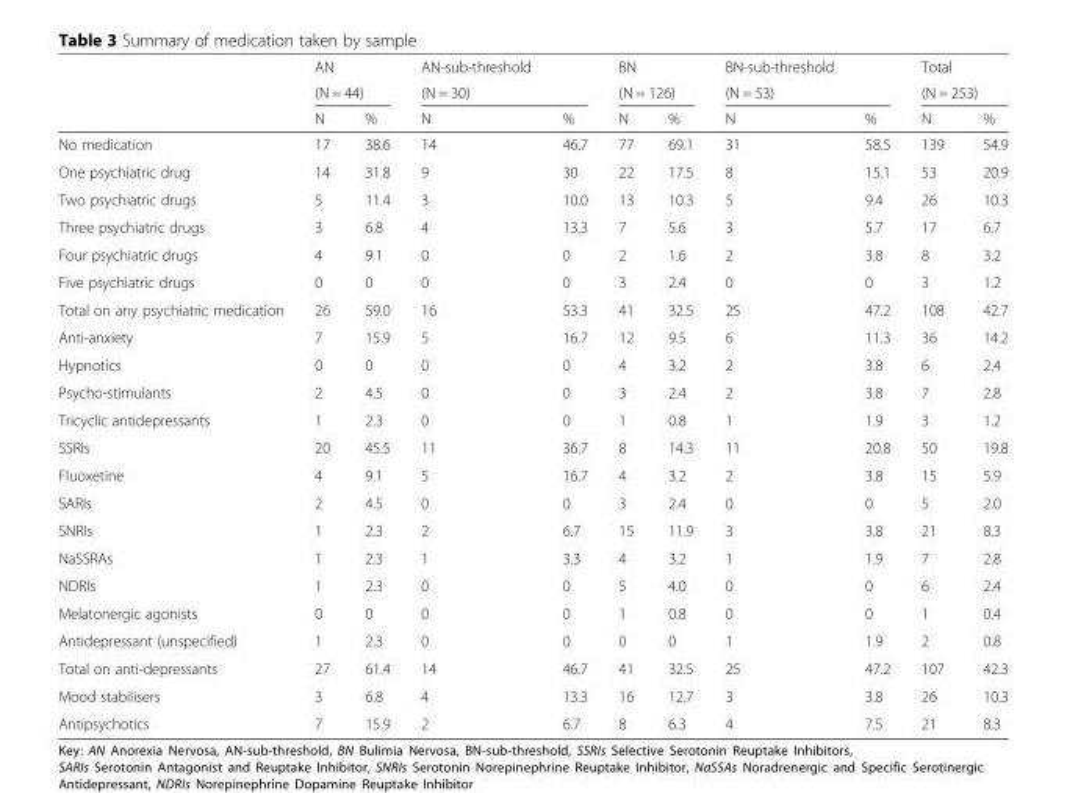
<table><thead><tr><td rowspan="3"></td><td>AN</td><td></td><td>AN-sub-threshold</td><td></td><td>BN</td><td></td><td>BN-sub-threshold</td><td></td><td>Total</td><td></td></tr><tr><td colspan="2">(N = 44)</td><td colspan="2">(N = 30)</td><td colspan="2">(N = 126)</td><td colspan="2">(N = 53)</td><td colspan="2">(N = 253)</td></tr><tr><td>N</td><td>%</td><td>N</td><td>%</td><td>N</td><td>%</td><td>N</td><td>%</td><td>N</td><td>%</td></tr></thead><tbody><tr><td>No medication</td><td>17</td><td>38.6</td><td>14</td><td>46.7</td><td>77</td><td>69.1</td><td>31</td><td>58.5</td><td>139</td><td>54.9</td></tr><tr><td>One psychiatric drug</td><td>14</td><td>31.8</td><td>9</td><td>30</td><td>22</td><td>17.5</td><td>8</td><td>15.1</td><td>53</td><td>20.9</td></tr><tr><td>Two psychiatric drugs</td><td>5</td><td>11.4</td><td>3</td><td>10.0</td><td>13</td><td>10.3</td><td>5</td><td>9.4</td><td>26</td><td>10.3</td></tr><tr><td>Three psychiatric drugs</td><td>3</td><td>6.8</td><td>4</td><td>13.3</td><td>7</td><td>5.6</td><td>3</td><td>5.7</td><td>17</td><td>6.7</td></tr><tr><td>Four psychiatric drugs</td><td>4</td><td>9.1</td><td>0</td><td>0</td><td>2</td><td>1.6</td><td>2</td><td>3.8</td><td>8</td><td>3.2</td></tr><tr><td>Five psychiatric drugs</td><td>0</td><td>0</td><td>0</td><td>0</td><td>3</td><td>2.4</td><td>0</td><td>0</td><td>3</td><td>1.2</td></tr><tr><td>Total on any psychiatric medication</td><td>26</td><td>59.0</td><td>16</td><td>53.3</td><td>41</td><td>32.5</td><td>25</td><td>47.2</td><td>108</td><td>42.7</td></tr><tr><td>Anti-anxiety</td><td>7</td><td>15.9</td><td>5</td><td>16.7</td><td>12</td><td>9.5</td><td>6</td><td>11.3</td><td>36</td><td>14.2</td></tr><tr><td>Hypnotics</td><td>0</td><td>0</td><td>0</td><td>0</td><td>4</td><td>3.2</td><td>2</td><td>3.8</td><td>6</td><td>2.4</td></tr><tr><td>Psycho-stimulants</td><td>2</td><td>4.5</td><td>0</td><td>0</td><td>3</td><td>2.4</td><td>2</td><td>3.8</td><td>7</td><td>2.8</td></tr><tr><td>Tricyclic antidepressants</td><td>1</td><td>2.3</td><td>0</td><td>0</td><td>1</td><td>0.8</td><td>1</td><td>1.9</td><td>3</td><td>1.2</td></tr><tr><td>SSRIs</td><td>20</td><td>45.5</td><td>11</td><td>36.7</td><td>8</td><td>14.3</td><td>11</td><td>20.8</td><td>50</td><td>19.8</td></tr><tr><td>Fluoxetine</td><td>4</td><td>9.1</td><td>5</td><td>16.7</td><td>4</td><td>3.2</td><td>2</td><td>3.8</td><td>15</td><td>5.9</td></tr><tr><td>SARIs</td><td>2</td><td>4.5</td><td>0</td><td>0</td><td>3</td><td>2.4</td><td>0</td><td>0</td><td>5</td><td>2.0</td></tr><tr><td>SNRIs</td><td>1</td><td>2.3</td><td>2</td><td>6.7</td><td>15</td><td>11.9</td><td>3</td><td>3.8</td><td>21</td><td>8.3</td></tr><tr><td>NaSSRAs</td><td>1</td><td>2.3</td><td>1</td><td>3.3</td><td>4</td><td>3.2</td><td>1</td><td>1.9</td><td>7</td><td>2.8</td></tr><tr><td>NDRIs</td><td>1</td><td>2.3</td><td>0</td><td>0</td><td>5</td><td>4.0</td><td>0</td><td>0</td><td>6</td><td>2.4</td></tr><tr><td>Melatonergic agonists</td><td>0</td><td>0</td><td>0</td><td>0</td><td>1</td><td>0.8</td><td>0</td><td>0</td><td>1</td><td>0.4</td></tr><tr><td>Antidepressant (unspecified)</td><td>1</td><td>2.3</td><td>0</td><td>0</td><td>0</td><td>0</td><td>1</td><td>1.9</td><td>2</td><td>0.8</td></tr><tr><td>Total on anti-depressants</td><td>27</td><td>61.4</td><td>14</td><td>46.7</td><td>41</td><td>32.5</td><td>25</td><td>47.2</td><td>107</td><td>42.3</td></tr><tr><td>Mood stabilisers</td><td>3</td><td>6.8</td><td>4</td><td>13.3</td><td>16</td><td>12.7</td><td>3</td><td>3.8</td><td>26</td><td>10.3</td></tr><tr><td>Antipsychotics</td><td>7</td><td>15.9</td><td>2</td><td>6.7</td><td>8</td><td>6.3</td><td>4</td><td>7.5</td><td>21</td><td>8.3</td></tr></tbody></table>